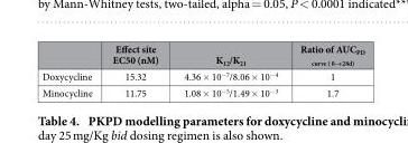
<table><thead><tr><td></td><td>Effect site EC50 (nM)</td><td>K<sub>12</sub>/K<sub>21</sub></td><td>Ratio of AUC<sub>PD curve ( 0→28d)</sub></td></tr></thead><tbody><tr><td>Doxycycline</td><td>15.32</td><td>4.36 × 10<sup>−7</sup>/8.06 × 10<sup>−4</sup></td><td>1</td></tr><tr><td>Minocycline</td><td>11.75</td><td>1.08 × 10<sup>−5</sup>/1.49 × 10<sup>−3</sup></td><td>1.7</td></tr></tbody></table>